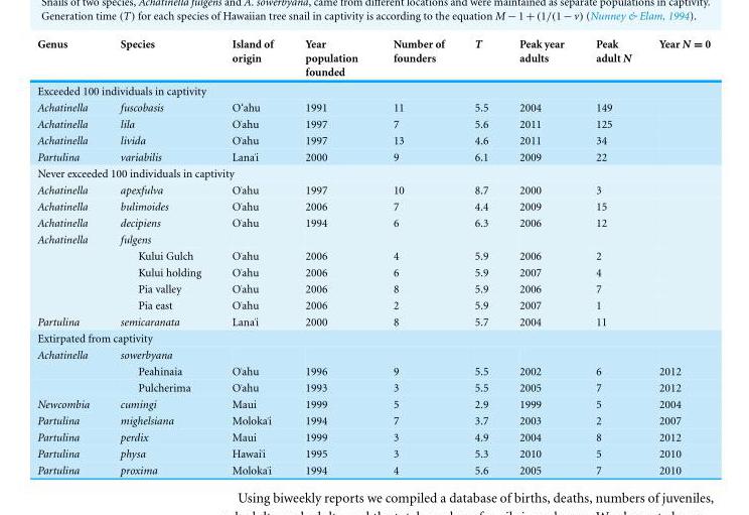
<table><thead><tr><td>Genus</td><td>Species</td><td>Island of origin</td><td>Year population founded</td><td>Number of founders</td><td>T</td><td>Peak year adults</td><td>Peak adult N</td><td>Year N = 0</td></tr></thead><tbody><tr><td colspan="9">Exceeded 100 individuals in captivity</td></tr><tr><td>Achatinella</td><td>fuscobasis</td><td>O‘ahu</td><td>1991</td><td>11</td><td>5.5</td><td>2004</td><td>149</td><td></td></tr><tr><td>Achatinella</td><td>lila</td><td>O‘ahu</td><td>1997</td><td>7</td><td>5.6</td><td>2011</td><td>125</td><td></td></tr><tr><td>Achatinella</td><td>livida</td><td>O‘ahu</td><td>1997</td><td>13</td><td>4.6</td><td>2011</td><td>34</td><td></td></tr><tr><td>Partulina</td><td>variabilis</td><td>Lana‘i</td><td>2000</td><td>9</td><td>6.1</td><td>2009</td><td>22</td><td></td></tr><tr><td colspan="9">Never exceeded 100 individuals in captivity</td></tr><tr><td>Achatinella</td><td>apexfulva</td><td>O‘ahu</td><td>1997</td><td>10</td><td>8.7</td><td>2000</td><td>3</td><td></td></tr><tr><td>Achatinella</td><td>bulimoides</td><td>O‘ahu</td><td>2006</td><td>7</td><td>4.4</td><td>2009</td><td>15</td><td></td></tr><tr><td>Achatinella</td><td>decipiens</td><td>O‘ahu</td><td>1994</td><td>6</td><td>6.3</td><td>2006</td><td>12</td><td></td></tr><tr><td rowspan="5">Achatinella</td><td>fulgens</td><td></td><td></td><td></td><td></td><td></td><td></td><td></td></tr><tr><td>Kului Gulch</td><td>O‘ahu</td><td>2006</td><td>4</td><td>5.9</td><td>2006</td><td>2</td><td></td></tr><tr><td>Kului holding</td><td>O‘ahu</td><td>2006</td><td>6</td><td>5.9</td><td>2007</td><td>4</td><td></td></tr><tr><td>Pia valley</td><td>O‘ahu</td><td>2006</td><td>8</td><td>5.9</td><td>2006</td><td>7</td><td></td></tr><tr><td>Pia east</td><td>O‘ahu</td><td>2006</td><td>2</td><td>5.9</td><td>2007</td><td>1</td><td></td></tr><tr><td>Partulina</td><td>semicaranata</td><td>Lana‘i</td><td>2000</td><td>8</td><td>5.7</td><td>2004</td><td>11</td><td></td></tr><tr><td colspan="9">Extirpated from captivity</td></tr><tr><td rowspan="3">Achatinella</td><td>sowerbyana</td><td></td><td></td><td></td><td></td><td></td><td></td><td></td></tr><tr><td>Peahinaia</td><td>O‘ahu</td><td>1996</td><td>9</td><td>5.5</td><td>2002</td><td>6</td><td>2012</td></tr><tr><td>Pulcherima</td><td>O‘ahu</td><td>1993</td><td>3</td><td>5.5</td><td>2005</td><td>7</td><td>2012</td></tr><tr><td>Newcombia</td><td>cumingi</td><td>Maui</td><td>1999</td><td>5</td><td>2.9</td><td>1999</td><td>5</td><td>2004</td></tr><tr><td>Partulina</td><td>mighelsiana</td><td>Moloka‘i</td><td>1994</td><td>7</td><td>3.7</td><td>2003</td><td>2</td><td>2007</td></tr><tr><td>Partulina</td><td>perdix</td><td>Maui</td><td>1999</td><td>3</td><td>4.9</td><td>2004</td><td>8</td><td>2012</td></tr><tr><td>Partulina</td><td>physa</td><td>Hawai‘i</td><td>1995</td><td>3</td><td>5.3</td><td>2010</td><td>5</td><td>2010</td></tr><tr><td>Partulina</td><td>proxima</td><td>Moloka‘i</td><td>1994</td><td>4</td><td>5.6</td><td>2005</td><td>7</td><td>2010</td></tr></tbody></table>